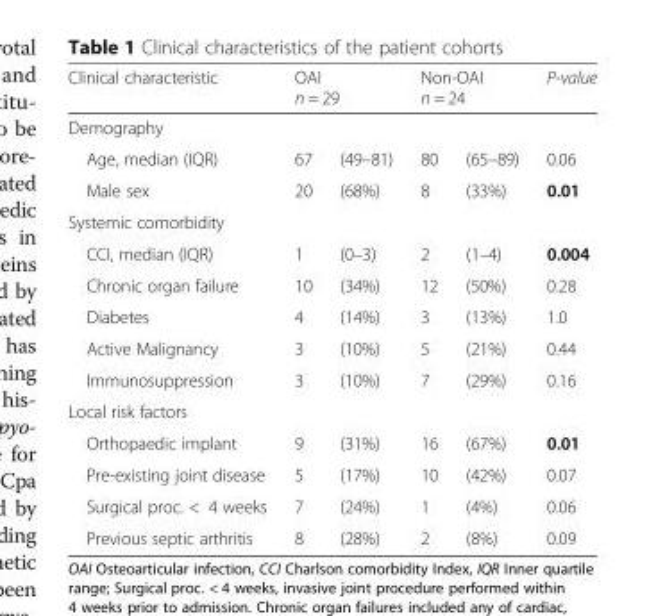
<table><thead><tr><td>Clinical characteristic</td><td colspan="2">OAI n = 29</td><td colspan="2">Non-OAI n = 24</td><td>P-value</td></tr><tr><td colspan="6">Demography</td></tr><tr><td>Age, median (IQR)</td><td>67</td><td>(49–81)</td><td>80</td><td>(65–89)</td><td>0.06</td></tr></thead><tbody><tr><td>Male sex</td><td>20</td><td>(68%)</td><td>8</td><td>(33%)</td><td>0.01</td></tr><tr><td colspan="6">Systemic comorbidity</td></tr><tr><td>CCI, median (IQR)</td><td>1</td><td>(0–3)</td><td>2</td><td>(1–4)</td><td>0.004</td></tr><tr><td>Chronic organ failure</td><td>10</td><td>(34%)</td><td>12</td><td>(50%)</td><td>0.28</td></tr><tr><td>Diabetes</td><td>4</td><td>(14%)</td><td>3</td><td>(13%)</td><td>1.0</td></tr><tr><td>Active Malignancy</td><td>3</td><td>(10%)</td><td>5</td><td>(21%)</td><td>0.44</td></tr><tr><td>Immunosuppression</td><td>3</td><td>(10%)</td><td>7</td><td>(29%)</td><td>0.16</td></tr><tr><td colspan="6">Local risk factors</td></tr><tr><td>Orthopaedic implant</td><td>9</td><td>(31%)</td><td>16</td><td>(67%)</td><td>0.01</td></tr><tr><td>Pre-existing joint disease</td><td>5</td><td>(17%)</td><td>10</td><td>(42%)</td><td>0.07</td></tr><tr><td>Surgical proc. &lt; 4 weeks</td><td>7</td><td>(24%)</td><td>1</td><td>(4%)</td><td>0.06</td></tr><tr><td>Previous septic arthritis</td><td>8</td><td>(28%)</td><td>2</td><td>(8%)</td><td>0.09</td></tr></tbody></table>